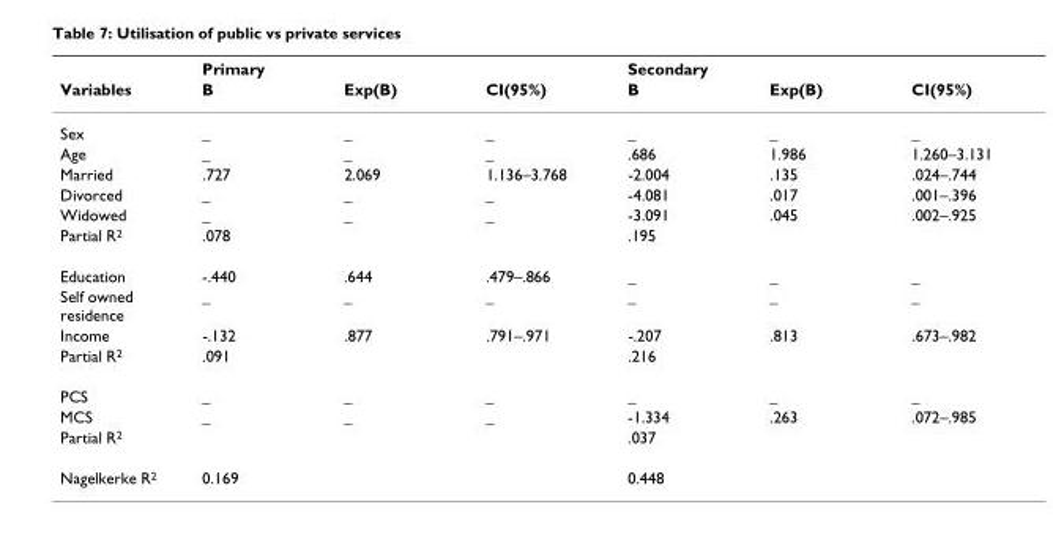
<table><thead><tr><td rowspan="2">Variables</td><td colspan="3">Primary</td><td colspan="3">Secondary</td></tr><tr><td>B</td><td>Exp(B)</td><td>CI(95%)</td><td>B</td><td>Exp(B)</td><td>CI(95%)</td></tr></thead><tbody><tr><td>Sex</td><td>_</td><td>_</td><td>_</td><td>_</td><td>_</td><td>_</td></tr><tr><td>Age</td><td>_</td><td>_</td><td>_</td><td>.686</td><td>1.986</td><td>1.260–3.131</td></tr><tr><td>Married</td><td>.727</td><td>2.069</td><td>1.136–3.768</td><td>-2.004</td><td>.135</td><td>.024–.744</td></tr><tr><td>Divorced</td><td>_</td><td>_</td><td>_</td><td>-4.081</td><td>.017</td><td>.001–.396</td></tr><tr><td>Widowed</td><td>_</td><td>_</td><td>_</td><td>-3.091</td><td>.045</td><td>.002–.925</td></tr><tr><td>Partial R2</td><td>.078</td><td></td><td></td><td>.195</td><td></td><td></td></tr><tr><td>Education</td><td>-.440</td><td>.644</td><td>.479–.866</td><td>_</td><td>_</td><td>_</td></tr><tr><td>Self owned residence</td><td>_</td><td>_</td><td>_</td><td>_</td><td>_</td><td>_</td></tr><tr><td>Income</td><td>-.132</td><td>.877</td><td>.791–.971</td><td>-.207</td><td>.813</td><td>.673–.982</td></tr><tr><td>Partial R2</td><td>.091</td><td></td><td></td><td>.216</td><td></td><td></td></tr><tr><td>PCS</td><td>_</td><td>_</td><td>_</td><td>_</td><td>_</td><td>_</td></tr><tr><td>MCS</td><td>_</td><td>_</td><td>_</td><td>-1.334</td><td>.263</td><td>.072–.985</td></tr><tr><td>Partial R2</td><td></td><td></td><td></td><td>.037</td><td></td><td></td></tr><tr><td>Nagelkerke R2</td><td>0.169</td><td></td><td></td><td>0.448</td><td></td><td></td></tr></tbody></table>